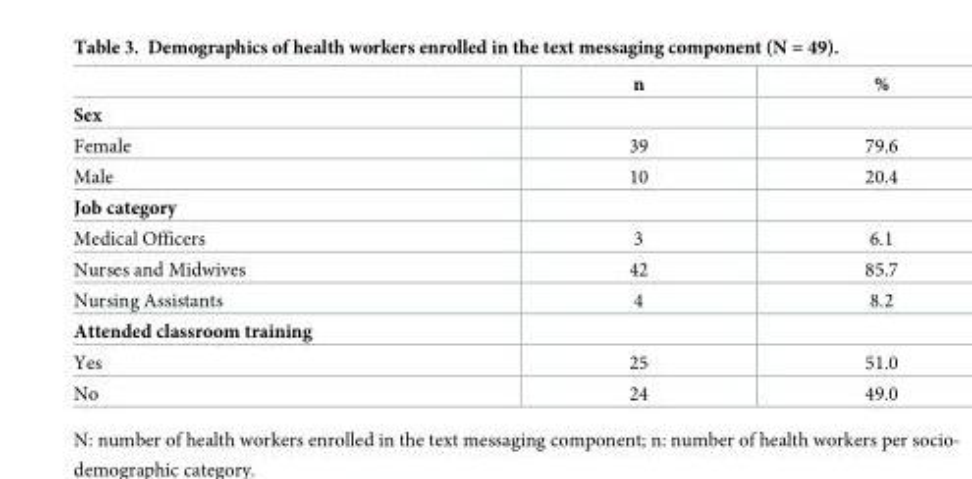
<table><thead><tr><td></td><td>n</td><td>%</td></tr></thead><tbody><tr><td colspan="3">Sex</td></tr><tr><td>Female</td><td>39</td><td>79.6</td></tr><tr><td>Male</td><td>10</td><td>20.4</td></tr><tr><td colspan="3">Job category</td></tr><tr><td>Medical Officers</td><td>3</td><td>6.1</td></tr><tr><td>Nurses and Midwives</td><td>42</td><td>85.7</td></tr><tr><td>Nursing Assistants</td><td>4</td><td>8.2</td></tr><tr><td colspan="3">Attended classroom training</td></tr><tr><td>Yes</td><td>25</td><td>51.0</td></tr><tr><td>No</td><td>24</td><td>49.0</td></tr></tbody></table>